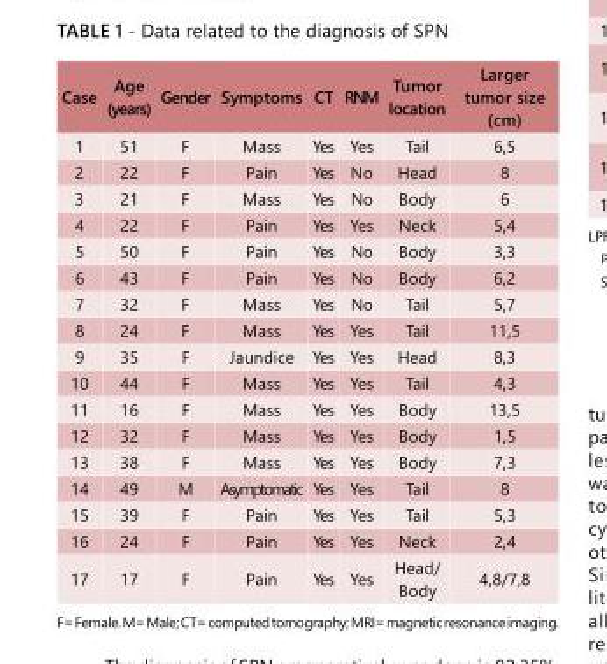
<table><tbody><tr><td>Case</td><td>Age (years)</td><td>Gender</td><td>Symptoms</td><td>CT</td><td>RNM</td><td>Tumor location</td><td>Larger tumor size (cm)</td></tr><tr><td>1</td><td>51</td><td>F</td><td>Mass</td><td>Yes</td><td>Yes</td><td>Tail</td><td>6,5</td></tr><tr><td>2</td><td>22</td><td>F</td><td>Pain</td><td>Yes</td><td>No</td><td>Head</td><td>8</td></tr><tr><td>3</td><td>21</td><td>F</td><td>Mass</td><td>Yes</td><td>No</td><td>Body</td><td>6</td></tr><tr><td>4</td><td>22</td><td>F</td><td>Pain</td><td>Yes</td><td>Yes</td><td>Neck</td><td>5,4</td></tr><tr><td>5</td><td>50</td><td>F</td><td>Pain</td><td>Yes</td><td>No</td><td>Body</td><td>3,3</td></tr><tr><td>6</td><td>43</td><td>F</td><td>Pain</td><td>Yes</td><td>No</td><td>Body</td><td>6,2</td></tr><tr><td>7</td><td>32</td><td>F</td><td>Mass</td><td>Yes</td><td>No</td><td>Tail</td><td>5,7</td></tr><tr><td>8</td><td>24</td><td>F</td><td>Mass</td><td>Yes</td><td>Yes</td><td>Tail</td><td>11,5</td></tr><tr><td>9</td><td>35</td><td>F</td><td>Jaundice</td><td>Yes</td><td>Yes</td><td>Head</td><td>8,3</td></tr><tr><td>10</td><td>44</td><td>F</td><td>Mass</td><td>Yes</td><td>Yes</td><td>Tail</td><td>4,3</td></tr><tr><td>11</td><td>16</td><td>F</td><td>Mass</td><td>Yes</td><td>Yes</td><td>Body</td><td>13,5</td></tr><tr><td>12</td><td>32</td><td>F</td><td>Mass</td><td>Yes</td><td>Yes</td><td>Body</td><td>1,5</td></tr><tr><td>13</td><td>38</td><td>F</td><td>Mass</td><td>Yes</td><td>Yes</td><td>Body</td><td>7,3</td></tr><tr><td>14</td><td>49</td><td>M</td><td>Asymptomatic</td><td>Yes</td><td>Yes</td><td>Tail</td><td>8</td></tr><tr><td>15</td><td>39</td><td>F</td><td>Pain</td><td>Yes</td><td>Yes</td><td>Tail</td><td>5,3</td></tr><tr><td>16</td><td>24</td><td>F</td><td>Pain</td><td>Yes</td><td>Yes</td><td>Neck</td><td>2,4</td></tr><tr><td>17</td><td>17</td><td>F</td><td>Pain</td><td>Yes</td><td>Yes</td><td>Head/ Body</td><td>4,8/7,8</td></tr></tbody></table>